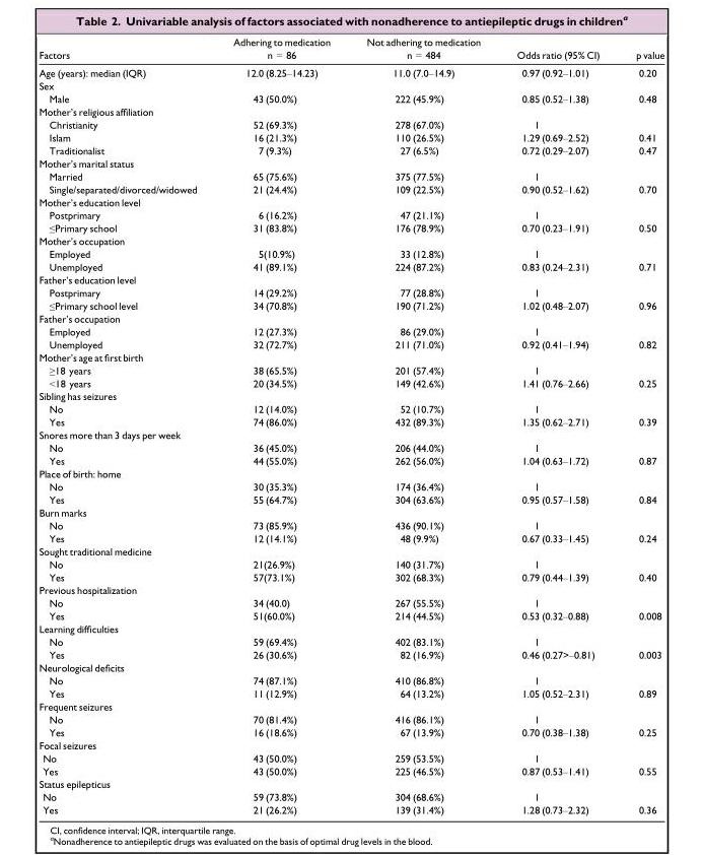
<table><thead><tr><td>Factors</td><td>Adhering to medication n = 86</td><td>Not adhering to medication n = 484</td><td>Odds ratio (95% CI)</td><td>p value</td></tr></thead><tbody><tr><td>Age (years): median (IQR)</td><td>12.0 (8.25–14.23)</td><td>11.0 (7.0–14.9)</td><td>0.97 (0.92–1.01)</td><td>0.20</td></tr><tr><td colspan="5">Sex</td></tr><tr><td>Male</td><td>43 (50.0%)</td><td>222 (45.9%)</td><td>0.85 (0.52–1.38)</td><td>0.48</td></tr><tr><td colspan="5">Mother’s religious affiliation</td></tr><tr><td>Christianity</td><td>52 (69.3%)</td><td>278 (67.0%)</td><td>1</td><td></td></tr><tr><td>Islam</td><td>16 (21.3%)</td><td>110 (26.5%)</td><td>1.29 (0.69–2.52)</td><td>0.41</td></tr><tr><td>Traditionalist</td><td>7 (9.3%)</td><td>27 (6.5%)</td><td>0.72 (0.29–2.07)</td><td>0.47</td></tr><tr><td colspan="5">Mother’s marital status</td></tr><tr><td>Married</td><td>65 (75.6%)</td><td>375 (77.5%)</td><td>1</td><td></td></tr><tr><td>Single/separated/divorced/widowed</td><td>21 (24.4%)</td><td>109 (22.5%)</td><td>0.90 (0.52–1.62)</td><td>0.70</td></tr><tr><td colspan="5">Mother’s education level</td></tr><tr><td>Postprimary</td><td>6 (16.2%)</td><td>47 (21.1%)</td><td>1</td><td></td></tr><tr><td>≤Primary school</td><td>31 (83.8%)</td><td>176 (78.9%)</td><td>0.70 (0.23–1.91)</td><td>0.50</td></tr><tr><td colspan="5">Mother’s occupation</td></tr><tr><td>Employed</td><td>5(10.9%)</td><td>33 (12.8%)</td><td>1</td><td></td></tr><tr><td>Unemployed</td><td>41 (89.1%)</td><td>224 (87.2%)</td><td>0.83 (0.24–2.31)</td><td>0.71</td></tr><tr><td colspan="5">Father’s education level</td></tr><tr><td>Postprimary</td><td>14 (29.2%)</td><td>77 (28.8%)</td><td>1</td><td></td></tr><tr><td>≤Primary school level</td><td>34 (70.8%)</td><td>190 (71.2%)</td><td>1.02 (0.48–2.07)</td><td>0.96</td></tr><tr><td colspan="5">Father’s occupation</td></tr><tr><td>Employed</td><td>12 (27.3%)</td><td>86 (29.0%)</td><td>1</td><td></td></tr><tr><td>Unemployed</td><td>32 (72.7%)</td><td>211 (71.0%)</td><td>0.92 (0.41–1.94)</td><td>0.82</td></tr><tr><td colspan="5">Mother’s age at first birth</td></tr><tr><td>≥18 years</td><td>38 (65.5%)</td><td>201 (57.4%)</td><td>1</td><td></td></tr><tr><td>&lt;18 years</td><td>20 (34.5%)</td><td>149 (42.6%)</td><td>1.41 (0.76–2.66)</td><td>0.25</td></tr><tr><td colspan="5">Sibling has seizures</td></tr><tr><td>No</td><td>12 (14.0%)</td><td>52 (10.7%)</td><td>1</td><td></td></tr><tr><td>Yes</td><td>74 (86.0%)</td><td>432 (89.3%)</td><td>1.35 (0.62–2.71)</td><td>0.39</td></tr><tr><td colspan="5">Snores more than 3 days per week</td></tr><tr><td>No</td><td>36 (45.0%)</td><td>206 (44.0%)</td><td>1</td><td></td></tr><tr><td>Yes</td><td>44 (55.0%)</td><td>262 (56.0%)</td><td>1.04 (0.63–1.72)</td><td>0.87</td></tr><tr><td colspan="5">Place of birth: home</td></tr><tr><td>No</td><td>30 (35.3%)</td><td>174 (36.4%)</td><td>1</td><td></td></tr><tr><td>Yes</td><td>55 (64.7%)</td><td>304 (63.6%)</td><td>0.95 (0.57–1.58)</td><td>0.84</td></tr><tr><td colspan="5">Burn marks</td></tr><tr><td>No</td><td>73 (85.9%)</td><td>436 (90.1%)</td><td>1</td><td></td></tr><tr><td>Yes</td><td>12 (14.1%)</td><td>48 (9.9%)</td><td>0.67 (0.33–1.45)</td><td>0.24</td></tr><tr><td colspan="5">Sought traditional medicine</td></tr><tr><td>No</td><td>21(26.9%)</td><td>140 (31.7%)</td><td>1</td><td></td></tr><tr><td>Yes</td><td>57(73.1%)</td><td>302 (68.3%)</td><td>0.79 (0.44–1.39)</td><td>0.40</td></tr><tr><td colspan="5">Previous hospitalization</td></tr><tr><td>No</td><td>34 (40.0)</td><td>267 (55.5%)</td><td>1</td><td></td></tr><tr><td>Yes</td><td>51(60.0%)</td><td>214 (44.5%)</td><td>0.53 (0.32–0.88)</td><td>0.008</td></tr><tr><td colspan="5">Learning difficulties</td></tr><tr><td>No</td><td>59 (69.4%)</td><td>402 (83.1%)</td><td>1</td><td></td></tr><tr><td>Yes</td><td>26 (30.6%)</td><td>82 (16.9%)</td><td>0.46 (0.27&gt;–0.81)</td><td>0.003</td></tr><tr><td colspan="5">Neurological deficits</td></tr><tr><td>No</td><td>74 (87.1%)</td><td>410 (86.8%)</td><td>1</td><td></td></tr><tr><td>Yes</td><td>11 (12.9%)</td><td>64 (13.2%)</td><td>1.05 (0.52–2.31)</td><td>0.89</td></tr><tr><td colspan="5">Frequent seizures</td></tr><tr><td>No</td><td>70 (81.4%)</td><td>416 (86.1%)</td><td>1</td><td></td></tr><tr><td>Yes</td><td>16 (18.6%)</td><td>67 (13.9%)</td><td>0.70 (0.38–1.38)</td><td>0.25</td></tr><tr><td colspan="5">Focal seizures</td></tr><tr><td>No</td><td>43 (50.0%)</td><td>259 (53.5%)</td><td>1</td><td></td></tr><tr><td>Yes</td><td>43 (50.0%)</td><td>225 (46.5%)</td><td>0.87 (0.53–1.41)</td><td>0.55</td></tr><tr><td colspan="5">Status epilepticus</td></tr><tr><td>No</td><td>59 (73.8%)</td><td>304 (68.6%)</td><td>1</td><td></td></tr><tr><td>Yes</td><td>21 (26.2%)</td><td>139 (31.4%)</td><td>1.28 (0.73–2.32)</td><td>0.36</td></tr></tbody></table>